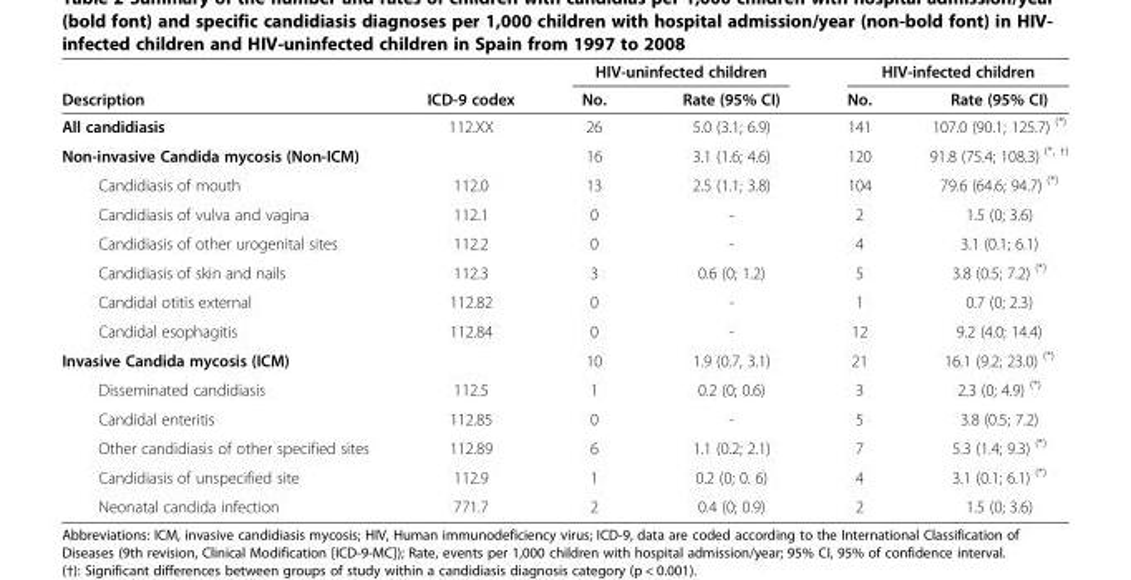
<table><thead><tr><td rowspan="2">Description</td><td rowspan="2">ICD-9 codex</td><td colspan="2">HIV-uninfected children</td><td colspan="2">HIV-infected children</td></tr><tr><td>No.</td><td>Rate (95% CI)</td><td>No.</td><td>Rate (95% CI)</td></tr></thead><tbody><tr><td>All candidiasis</td><td>112.XX</td><td>26</td><td>5.0 (3.1; 6.9)</td><td>141</td><td>107.0 (90.1; 125.7) <sup>(*)</sup></td></tr><tr><td>Non-invasive Candida mycosis (Non-ICM)</td><td></td><td>16</td><td>3.1 (1.6; 4.6)</td><td>120</td><td>91.8 (75.4; 108.3) <sup>(*, †)</sup></td></tr><tr><td>Candidiasis of mouth</td><td>112.0</td><td>13</td><td>2.5 (1.1; 3.8)</td><td>104</td><td>79.6 (64.6; 94.7) <sup>(*)</sup></td></tr><tr><td>Candidiasis of vulva and vagina</td><td>112.1</td><td>0</td><td>-</td><td>2</td><td>1.5 (0; 3.6)</td></tr><tr><td>Candidiasis of other urogenital sites</td><td>112.2</td><td>0</td><td>-</td><td>4</td><td>3.1 (0.1; 6.1)</td></tr><tr><td>Candidiasis of skin and nails</td><td>112.3</td><td>3</td><td>0.6 (0; 1.2)</td><td>5</td><td>3.8 (0.5; 7.2) <sup>(*)</sup></td></tr><tr><td>Candidal otitis external</td><td>112.82</td><td>0</td><td>-</td><td>1</td><td>0.7 (0; 2.3)</td></tr><tr><td>Candidal esophagitis</td><td>112.84</td><td>0</td><td>-</td><td>12</td><td>9.2 (4.0; 14.4)</td></tr><tr><td>Invasive Candida mycosis (ICM)</td><td></td><td>10</td><td>1.9 (0.7, 3.1)</td><td>21</td><td>16.1 (9.2; 23.0) <sup>(*)</sup></td></tr><tr><td>Disseminated candidiasis</td><td>112.5</td><td>1</td><td>0.2 (0; 0.6)</td><td>3</td><td>2.3 (0; 4.9) <sup>(*)</sup></td></tr><tr><td>Candidal enteritis</td><td>112.85</td><td>0</td><td>-</td><td>5</td><td>3.8 (0.5; 7.2)</td></tr><tr><td>Other candidiasis of other specified sites</td><td>112.89</td><td>6</td><td>1.1 (0.2; 2.1)</td><td>7</td><td>5.3 (1.4; 9.3) <sup>(*)</sup></td></tr><tr><td>Candidiasis of unspecified site</td><td>112.9</td><td>1</td><td>0.2 (0; 0. 6)</td><td>4</td><td>3.1 (0.1; 6.1) <sup>(*)</sup></td></tr><tr><td>Neonatal candida infection</td><td>771.7</td><td>2</td><td>0.4 (0; 0.9)</td><td>2</td><td>1.5 (0; 3.6)</td></tr></tbody></table>